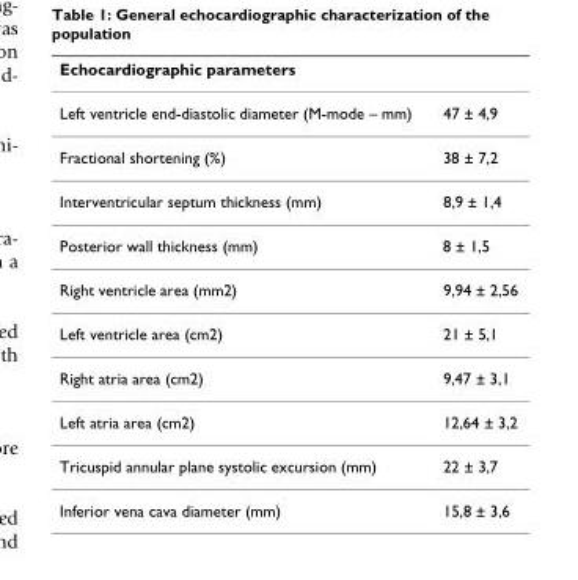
<table><thead><tr><td>Echocardiographic parameters</td><td></td></tr></thead><tbody><tr><td>Left ventricle end-diastolic diameter (M-mode – mm)</td><td>47 ± 4,9</td></tr><tr><td>Fractional shortening (%)</td><td>38 ± 7,2</td></tr><tr><td>Interventricular septum thickness (mm)</td><td>8,9 ± 1,4</td></tr><tr><td>Posterior wall thickness (mm)</td><td>8 ± 1,5</td></tr><tr><td>Right ventricle area (mm2)</td><td>9,94 ± 2,56</td></tr><tr><td>Left ventricle area (cm2)</td><td>21 ± 5,1</td></tr><tr><td>Right atria area (cm2)</td><td>9,47 ± 3,1</td></tr><tr><td>Left atria area (cm2)</td><td>12,64 ± 3,2</td></tr><tr><td>Tricuspid annular plane systolic excursion (mm)</td><td>22 ± 3,7</td></tr><tr><td>Inferior vena cava diameter (mm)</td><td>15,8 ± 3,6</td></tr></tbody></table>